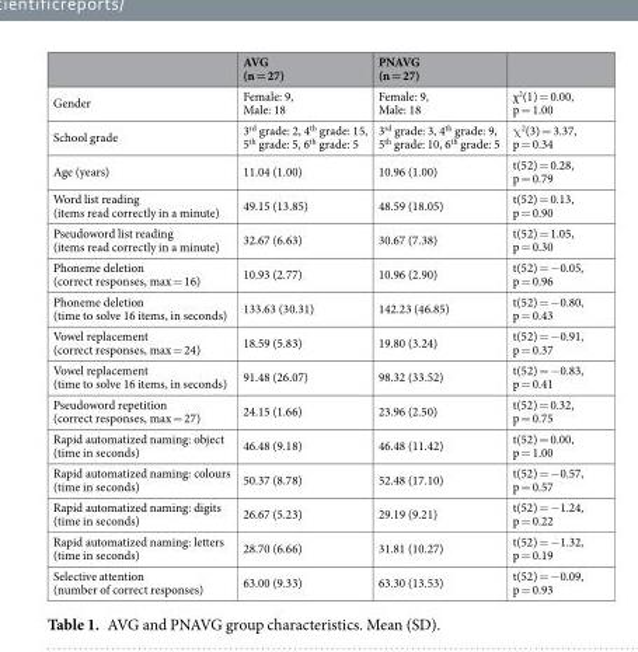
<table><thead><tr><td></td><td>AVG (n = 27)</td><td>PNAVG (n = 27)</td><td></td></tr></thead><tbody><tr><td>Gender</td><td>Female: 9, Male: 18</td><td>Female: 9, Male: 18</td><td>χ<sup>2</sup>(1) = 0.00, p = 1.00</td></tr><tr><td>School grade</td><td>3<sup>rd</sup> grade: 2, 4<sup>th</sup> grade: 15, 5<sup>th</sup> grade: 5, 6<sup>th</sup> grade: 5</td><td>3<sup>rd</sup> grade: 3, 4<sup>th</sup> grade: 9, 5<sup>th</sup> grade: 10, 6<sup>th</sup> grade: 5</td><td>χ<sup>2</sup>(3) = 3.37, p = 0.34</td></tr><tr><td>Age (years)</td><td>11.04 (1.00)</td><td>10.96 (1.00)</td><td>t(52) = 0.28, p = 0.79</td></tr><tr><td>Word list reading (items read correctly in a minute)</td><td>49.15 (13.85)</td><td>48.59 (18.05)</td><td>t(52) = 0.13, p = 0.90</td></tr><tr><td>Pseudoword list reading (items read correctly in a minute)</td><td>32.67 (6.63)</td><td>30.67 (7.38)</td><td>t(52) = 1.05, p = 0.30</td></tr><tr><td>Phoneme deletion (correct responses, max = 16)</td><td>10.93 (2.77)</td><td>10.96 (2.90)</td><td>t(52) = −0.05, p = 0.96</td></tr><tr><td>Phoneme deletion (time to solve 16 items, in seconds)</td><td>133.63 (30.31)</td><td>142.23 (46.85)</td><td>t(52) = −0.80, p = 0.43</td></tr><tr><td>Vowel replacement (correct responses, max = 24)</td><td>18.59 (5.83)</td><td>19.80 (3.24)</td><td>t(52) = −0.91, p = 0.37</td></tr><tr><td>Vowel replacement (time to solve 16 items, in seconds)</td><td>91.48 (26.07)</td><td>98.32 (33.52)</td><td>t(52) = −0.83, p = 0.41</td></tr><tr><td>Pseudoword repetition (correct responses, max = 27)</td><td>24.15 (1.66)</td><td>23.96 (2.50)</td><td>t(52) = 0.32, p = 0.75</td></tr><tr><td>Rapid automatized naming: object (time in seconds)</td><td>46.48 (9.18)</td><td>46.48 (11.42)</td><td>t(52) = 0.00, p = 1.00</td></tr><tr><td>Rapid automatized naming: colours (time in seconds)</td><td>50.37 (8.78)</td><td>52.48 (17.10)</td><td>t(52) = −0.57, p = 0.57</td></tr><tr><td>Rapid automatized naming: digits (time in seconds)</td><td>26.67 (5.23)</td><td>29.19 (9.21)</td><td>t(52) = −1.24, p = 0.22</td></tr><tr><td>Rapid automatized naming: letters (time in seconds)</td><td>28.70 (6.66)</td><td>31.81 (10.27)</td><td>t(52) = −1.32, p = 0.19</td></tr><tr><td>Selective attention (number of correct responses)</td><td>63.00 (9.33)</td><td>63.30 (13.53)</td><td>t(52) = −0.09, p = 0.93</td></tr></tbody></table>